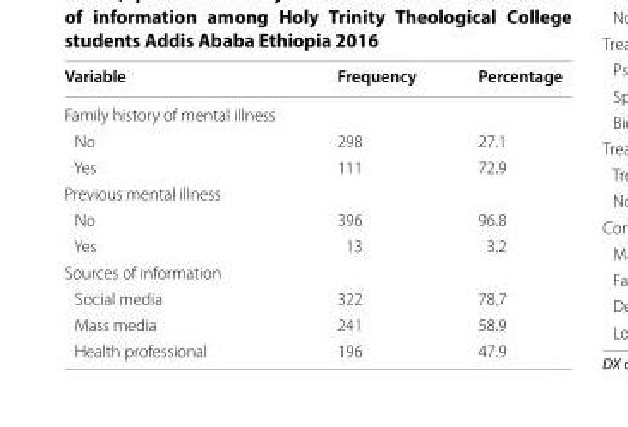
<table><thead><tr><td>Variable</td><td>Frequency</td><td>Percentage</td></tr></thead><tbody><tr><td colspan="3">Family history of mental illness</td></tr><tr><td>No</td><td>298</td><td>27.1</td></tr><tr><td>Yes</td><td>111</td><td>72.9</td></tr><tr><td colspan="3">Previous mental illness</td></tr><tr><td>No</td><td>396</td><td>96.8</td></tr><tr><td>Yes</td><td>13</td><td>3.2</td></tr><tr><td colspan="3">Sources of information</td></tr><tr><td>Social media</td><td>322</td><td>78.7</td></tr><tr><td>Mass media</td><td>241</td><td>58.9</td></tr><tr><td>Health professional</td><td>196</td><td>47.9</td></tr></tbody></table>